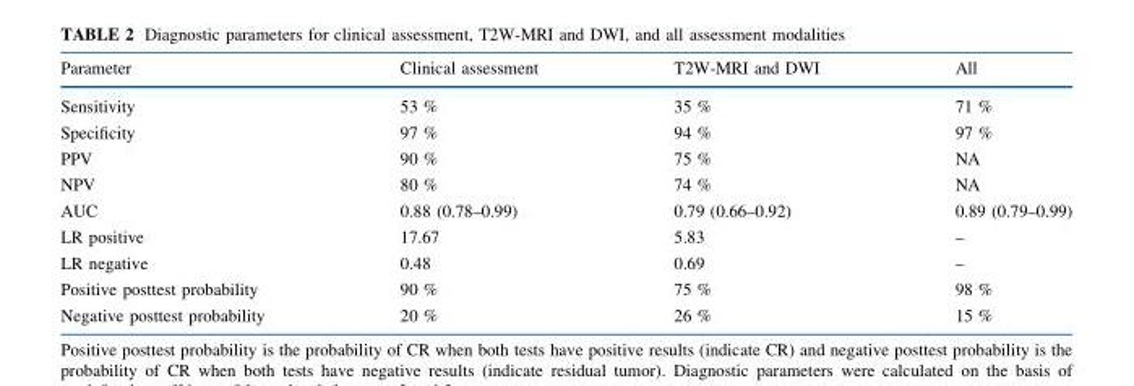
<table><thead><tr><td>Parameter</td><td>Clinical assessment</td><td>T2W-MRI and DWI</td><td>All</td></tr></thead><tbody><tr><td>Sensitivity</td><td>53 %</td><td>35 %</td><td>71 %</td></tr><tr><td>Specificity</td><td>97 %</td><td>94 %</td><td>97 %</td></tr><tr><td>PPV</td><td>90 %</td><td>75 %</td><td>NA</td></tr><tr><td>NPV</td><td>80 %</td><td>74 %</td><td>NA</td></tr><tr><td>AUC</td><td>0.88 (0.78–0.99)</td><td>0.79 (0.66–0.92)</td><td>0.89 (0.79–0.99)</td></tr><tr><td>LR positive</td><td>17.67</td><td>5.83</td><td>–</td></tr><tr><td>LR negative</td><td>0.48</td><td>0.69</td><td>–</td></tr><tr><td>Positive posttest probability</td><td>90 %</td><td>75 %</td><td>98 %</td></tr><tr><td>Negative posttest probability</td><td>20 %</td><td>26 %</td><td>15 %</td></tr></tbody></table>